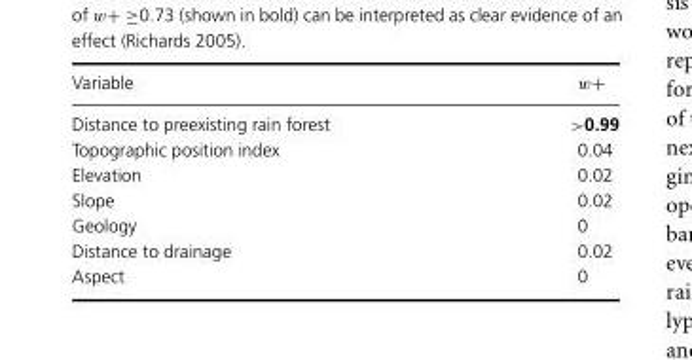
<table><thead><tr><td>Variable</td><td>w+</td></tr></thead><tbody><tr><td>Distance to preexisting rain forest</td><td>&gt;0.99</td></tr><tr><td>Topographic position index</td><td>0.04</td></tr><tr><td>Elevation</td><td>0.02</td></tr><tr><td>Slope</td><td>0.02</td></tr><tr><td>Geology</td><td>0</td></tr><tr><td>Distance to drainage</td><td>0.02</td></tr><tr><td>Aspect</td><td>0</td></tr></tbody></table>